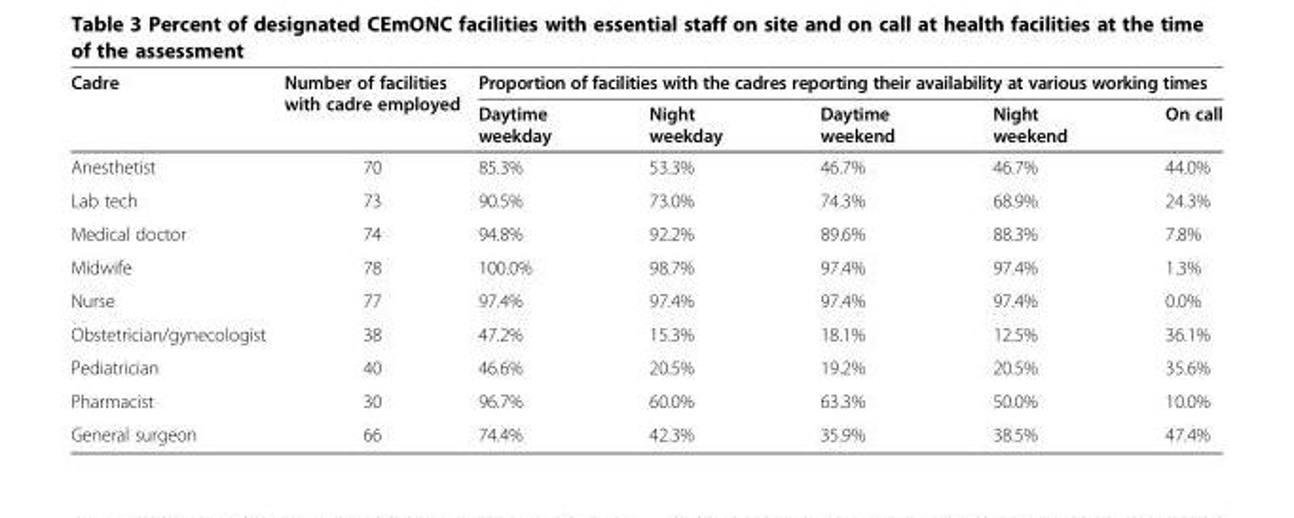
<table><thead><tr><td rowspan="2">Cadre</td><td rowspan="2">Number of facilities with cadre employed</td><td colspan="5">Proportion of facilities with the cadres reporting their availability at various working times</td></tr><tr><td>Daytime weekday</td><td>Night weekday</td><td>Daytime weekend</td><td>Night weekend</td><td>On call</td></tr></thead><tbody><tr><td>Anesthetist</td><td>70</td><td>85.3%</td><td>53.3%</td><td>46.7%</td><td>46.7%</td><td>44.0%</td></tr><tr><td>Lab tech</td><td>73</td><td>90.5%</td><td>73.0%</td><td>74.3%</td><td>68.9%</td><td>24.3%</td></tr><tr><td>Medical doctor</td><td>74</td><td>94.8%</td><td>92.2%</td><td>89.6%</td><td>88.3%</td><td>7.8%</td></tr><tr><td>Midwife</td><td>78</td><td>100.0%</td><td>98.7%</td><td>97.4%</td><td>97.4%</td><td>1.3%</td></tr><tr><td>Nurse</td><td>77</td><td>97.4%</td><td>97.4%</td><td>97.4%</td><td>97.4%</td><td>0.0%</td></tr><tr><td>Obstetrician/gynecologist</td><td>38</td><td>47.2%</td><td>15.3%</td><td>18.1%</td><td>12.5%</td><td>36.1%</td></tr><tr><td>Pediatrician</td><td>40</td><td>46.6%</td><td>20.5%</td><td>19.2%</td><td>20.5%</td><td>35.6%</td></tr><tr><td>Pharmacist</td><td>30</td><td>96.7%</td><td>60.0%</td><td>63.3%</td><td>50.0%</td><td>10.0%</td></tr><tr><td>General surgeon</td><td>66</td><td>74.4%</td><td>42.3%</td><td>35.9%</td><td>38.5%</td><td>47.4%</td></tr></tbody></table>